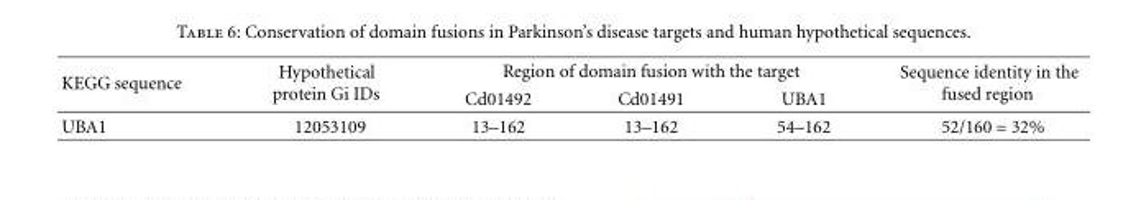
<table><thead><tr><td rowspan="2">KEGG sequence</td><td rowspan="2">Hypothetical protein Gi IDs</td><td colspan="3">Region of domain fusion with the target</td><td rowspan="2">Sequence identity in the fused region</td></tr><tr><td>Cd01492</td><td>Cd01491</td><td>UBA1</td></tr></thead><tbody><tr><td>UBA1</td><td>12053109</td><td>13–162</td><td>13–162</td><td>54–162</td><td>52/160 = 32%</td></tr></tbody></table>